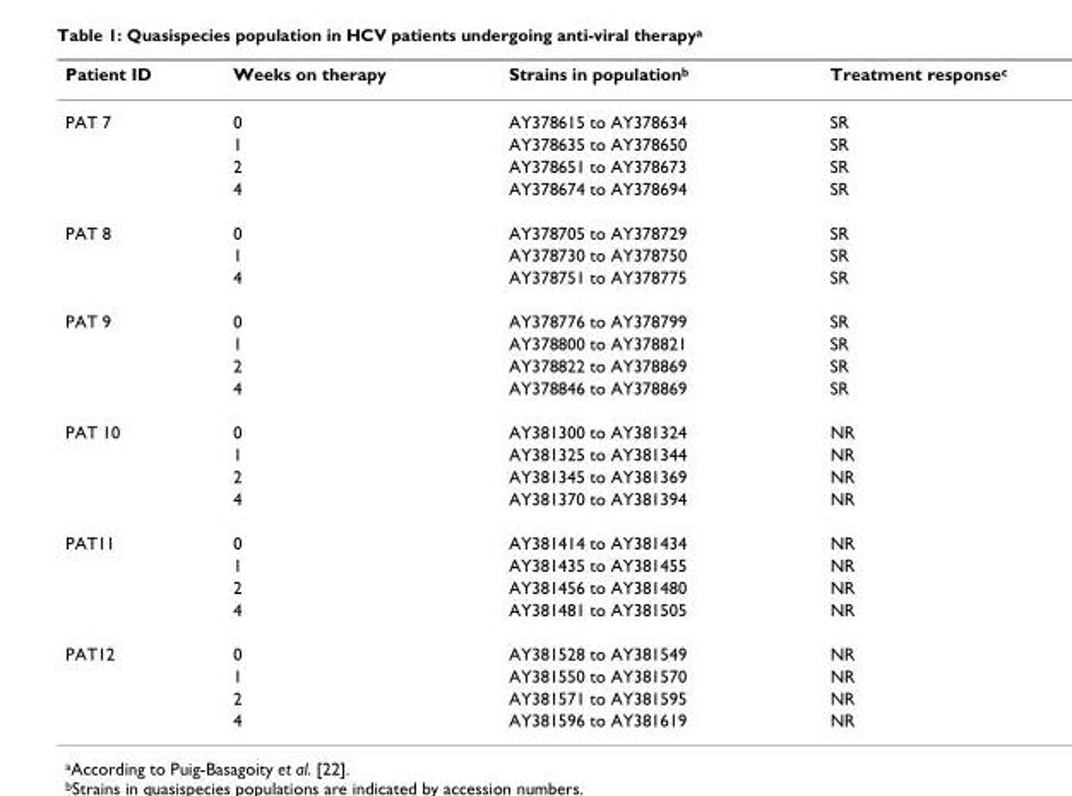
<table><thead><tr><td>Patient ID</td><td>Weeks on therapy</td><td>Strains in population<sup>b</sup></td><td>Treatment response<sup>c</sup></td></tr></thead><tbody><tr><td rowspan="4">PAT 7</td><td>0</td><td>AY378615 to AY378634</td><td>SR</td></tr><tr><td>1</td><td>AY378635 to AY378650</td><td>SR</td></tr><tr><td>2</td><td>AY378651 to AY378673</td><td>SR</td></tr><tr><td>4</td><td>AY378674 to AY378694</td><td>SR</td></tr><tr><td rowspan="3">PAT 8</td><td>0</td><td>AY378705 to AY378729</td><td>SR</td></tr><tr><td>1</td><td>AY378730 to AY378750</td><td>SR</td></tr><tr><td>4</td><td>AY378751 to AY378775</td><td>SR</td></tr><tr><td rowspan="4">PAT 9</td><td>0</td><td>AY378776 to AY378799</td><td>SR</td></tr><tr><td>1</td><td>AY378800 to AY378821</td><td>SR</td></tr><tr><td>2</td><td>AY378822 to AY378869</td><td>SR</td></tr><tr><td>4</td><td>AY378846 to AY378869</td><td>SR</td></tr><tr><td rowspan="4">PAT 10</td><td>0</td><td>AY381300 to AY381324</td><td>NR</td></tr><tr><td>1</td><td>AY381325 to AY381344</td><td>NR</td></tr><tr><td>2</td><td>AY381345 to AY381369</td><td>NR</td></tr><tr><td>4</td><td>AY381370 to AY381394</td><td>NR</td></tr><tr><td rowspan="4">PAT11</td><td>0</td><td>AY381414 to AY381434</td><td>NR</td></tr><tr><td>1</td><td>AY381435 to AY381455</td><td>NR</td></tr><tr><td>2</td><td>AY381456 to AY381480</td><td>NR</td></tr><tr><td>4</td><td>AY381481 to AY381505</td><td>NR</td></tr><tr><td rowspan="4">PAT12</td><td>0</td><td>AY381528 to AY381549</td><td>NR</td></tr><tr><td>1</td><td>AY381550 to AY381570</td><td>NR</td></tr><tr><td>2</td><td>AY381571 to AY381595</td><td>NR</td></tr><tr><td>4</td><td>AY381596 to AY381619</td><td>NR</td></tr></tbody></table>